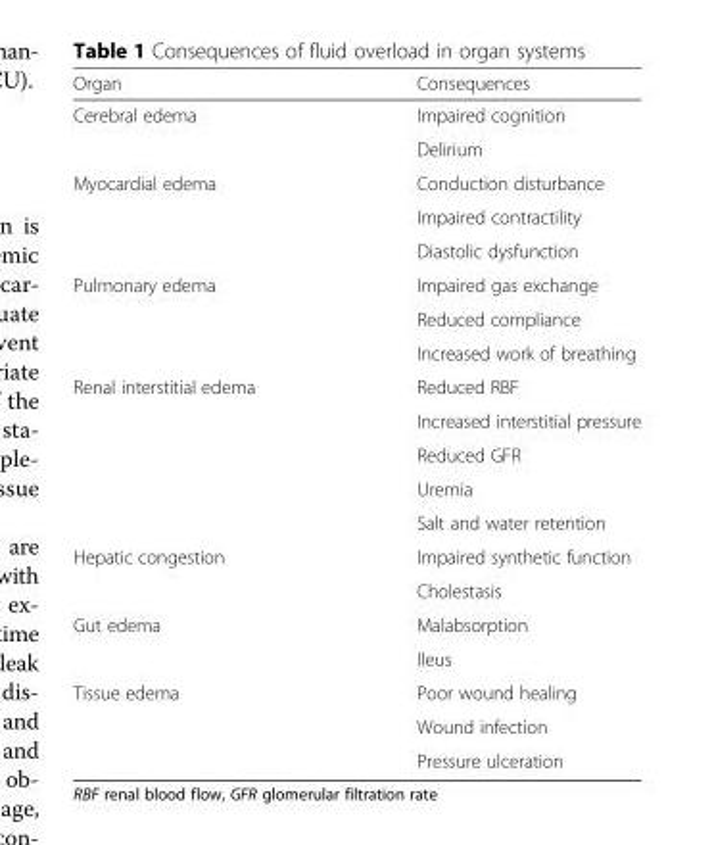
<table><thead><tr><td>Organ</td><td>Consequences</td></tr></thead><tbody><tr><td rowspan="2">Cerebral edema</td><td>Impaired cognition</td></tr><tr><td>Delirium</td></tr><tr><td rowspan="3">Myocardial edema</td><td>Conduction disturbance</td></tr><tr><td>Impaired contractility</td></tr><tr><td>Diastolic dysfunction</td></tr><tr><td rowspan="3">Pulmonary edema</td><td>Impaired gas exchange</td></tr><tr><td>Reduced compliance</td></tr><tr><td>Increased work of breathing</td></tr><tr><td rowspan="5">Renal interstitial edema</td><td>Reduced RBF</td></tr><tr><td>Increased interstitial pressure</td></tr><tr><td>Reduced GFR</td></tr><tr><td>Uremia</td></tr><tr><td>Salt and water retention</td></tr><tr><td rowspan="2">Hepatic congestion</td><td>Impaired synthetic function</td></tr><tr><td>Cholestasis</td></tr><tr><td rowspan="2">Gut edema</td><td>Malabsorption</td></tr><tr><td>Ileus</td></tr><tr><td rowspan="3">Tissue edema</td><td>Poor wound healing</td></tr><tr><td>Wound infection</td></tr><tr><td>Pressure ulceration</td></tr></tbody></table>